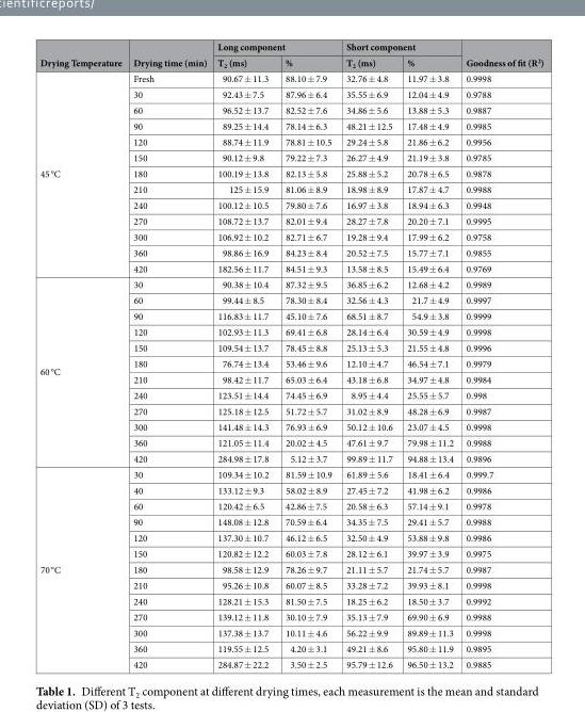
<table><thead><tr><td rowspan="2">Drying Temperature</td><td rowspan="2">Drying time (min)</td><td colspan="2">Long component</td><td colspan="2">Short component</td><td rowspan="2">Goodness of fit (R<sup>2</sup>)</td></tr><tr><td>T<sub>2</sub> (ms)</td><td>%</td><td>T<sub>2</sub> (ms)</td><td>%</td></tr></thead><tbody><tr><td rowspan="13">45 °C</td><td>Fresh</td><td>90.67 ± 11.3</td><td>88.10 ± 7.9</td><td>32.76 ± 4.8</td><td>11.97 ± 3.8</td><td>0.9998</td></tr><tr><td>30</td><td>92.43 ± 7.5</td><td>87.96 ± 6.4</td><td>35.55 ± 6.9</td><td>12.04 ± 4.9</td><td>0.9788</td></tr><tr><td>60</td><td>96.52 ± 13.7</td><td>82.52 ± 7.6</td><td>34.86 ± 5.6</td><td>13.88 ± 5.3</td><td>0.9887</td></tr><tr><td>90</td><td>89.25 ± 14.4</td><td>78.14 ± 6.3</td><td>48.21 ± 12.5</td><td>17.48 ± 4.9</td><td>0.9985</td></tr><tr><td>120</td><td>88.74 ± 11.9</td><td>78.81 ± 10.5</td><td>29.24 ± 5.8</td><td>21.86 ± 6.2</td><td>0.9956</td></tr><tr><td>150</td><td>90.12 ± 9.8</td><td>79.22 ± 7.3</td><td>26.27 ± 4.9</td><td>21.19 ± 3.8</td><td>0.9785</td></tr><tr><td>180</td><td>100.19 ± 13.8</td><td>82.13 ± 5.8</td><td>25.88 ± 5.2</td><td>20.78 ± 6.5</td><td>0.9878</td></tr><tr><td>210</td><td>125 ± 15.9</td><td>81.06 ± 8.9</td><td>18.98 ± 8.9</td><td>17.87 ± 4.7</td><td>0.9988</td></tr><tr><td>240</td><td>100.12 ± 10.5</td><td>79.80 ± 7.6</td><td>16.97 ± 3.8</td><td>18.94 ± 6.3</td><td>0.9948</td></tr><tr><td>270</td><td>108.72 ± 13.7</td><td>82.01 ± 9.4</td><td>28.27 ± 7.8</td><td>20.20 ± 7.1</td><td>0.9995</td></tr><tr><td>300</td><td>106.92 ± 10.2</td><td>82.71 ± 6.7</td><td>19.28 ± 9.4</td><td>17.99 ± 6.2</td><td>0.9758</td></tr><tr><td>360</td><td>98.86 ± 16.9</td><td>84.23 ± 8.4</td><td>20.52 ± 7.5</td><td>15.77 ± 7.1</td><td>0.9855</td></tr><tr><td>420</td><td>182.56 ± 11.7</td><td>84.51 ± 9.3</td><td>13.58 ± 8.5</td><td>15.49 ± 6.4</td><td>0.9769</td></tr><tr><td rowspan="12">60 °C</td><td>30</td><td>90.38 ± 10.4</td><td>87.32 ± 9.5</td><td>36.85 ± 6.2</td><td>12.68 ± 4.2</td><td>0.9989</td></tr><tr><td>60</td><td>99.44 ± 8.5</td><td>78.30 ± 8.4</td><td>32.56 ± 4.3</td><td>21.7 ± 4.9</td><td>0.9997</td></tr><tr><td>90</td><td>116.83 ± 11.7</td><td>45.10 ± 7.6</td><td>68.51 ± 8.7</td><td>54.9 ± 3.8</td><td>0.9999</td></tr><tr><td>120</td><td>102.93 ± 11.3</td><td>69.41 ± 6.8</td><td>28.14 ± 6.4</td><td>30.59 ± 4.9</td><td>0.9998</td></tr><tr><td>150</td><td>109.54 ± 13.7</td><td>78.45 ± 8.8</td><td>25.13 ± 5.3</td><td>21.55 ± 4.8</td><td>0.9996</td></tr><tr><td>180</td><td>76.74 ± 13.4</td><td>53.46 ± 9.6</td><td>12.10 ± 4.7</td><td>46.54 ± 7.1</td><td>0.9979</td></tr><tr><td>210</td><td>98.42 ± 11.7</td><td>65.03 ± 6.4</td><td>43.18 ± 6.8</td><td>34.97 ± 4.8</td><td>0.9984</td></tr><tr><td>240</td><td>123.51 ± 14.4</td><td>74.45 ± 6.9</td><td>8.95 ± 4.4</td><td>25.55 ± 5.7</td><td>0.998</td></tr><tr><td>270</td><td>125.18 ± 12.5</td><td>51.72 ± 5.7</td><td>31.02 ± 8.9</td><td>48.28 ± 6.9</td><td>0.9987</td></tr><tr><td>300</td><td>141.48 ± 14.3</td><td>76.93 ± 6.9</td><td>50.12 ± 10.6</td><td>23.07 ± 4.5</td><td>0.9998</td></tr><tr><td>360</td><td>121.05 ± 11.4</td><td>20.02 ± 4.5</td><td>47.61 ± 9.7</td><td>79.98 ± 11.2</td><td>0.9988</td></tr><tr><td>420</td><td>284.98 ± 17.8</td><td>5.12 ± 3.7</td><td>99.89 ± 11.7</td><td>94.88 ± 13.4</td><td>0.9896</td></tr><tr><td rowspan="13">70 °C</td><td>30</td><td>109.34 ± 10.2</td><td>81.59 ± 10.9</td><td>61.89 ± 5.6</td><td>18.41 ± 6.4</td><td>0.999.7</td></tr><tr><td>40</td><td>133.12 ± 9.3</td><td>58.02 ± 8.9</td><td>27.45 ± 7.2</td><td>41.98 ± 6.2</td><td>0.9986</td></tr><tr><td>60</td><td>120.42 ± 6.5</td><td>42.86 ± 7.5</td><td>20.58 ± 6.3</td><td>57.14 ± 9.1</td><td>0.9978</td></tr><tr><td>90</td><td>148.08 ± 12.8</td><td>70.59 ± 6.4</td><td>34.35 ± 7.5</td><td>29.41 ± 5.7</td><td>0.9988</td></tr><tr><td>120</td><td>137.30 ± 10.7</td><td>46.12 ± 6.5</td><td>32.50 ± 4.9</td><td>53.88 ± 9.8</td><td>0.9986</td></tr><tr><td>150</td><td>120.82 ± 12.2</td><td>60.03 ± 7.8</td><td>28.12 ± 6.1</td><td>39.97 ± 3.9</td><td>0.9975</td></tr><tr><td>180</td><td>98.58 ± 12.9</td><td>78.26 ± 9.7</td><td>21.11 ± 5.7</td><td>21.74 ± 5.7</td><td>0.9987</td></tr><tr><td>210</td><td>95.26 ± 10.8</td><td>60.07 ± 8.5</td><td>33.28 ± 7.2</td><td>39.93 ± 8.1</td><td>0.9998</td></tr><tr><td>240</td><td>128.21 ± 15.3</td><td>81.50 ± 7.5</td><td>18.25 ± 6.2</td><td>18.50 ± 3.7</td><td>0.9992</td></tr><tr><td>270</td><td>139.12 ± 11.8</td><td>30.10 ± 7.9</td><td>35.13 ± 7.9</td><td>69.90 ± 6.9</td><td>0.9988</td></tr><tr><td>300</td><td>137.38 ± 13.7</td><td>10.11 ± 4.6</td><td>56.22 ± 9.9</td><td>89.89 ± 11.3</td><td>0.9998</td></tr><tr><td>360</td><td>119.55 ± 12.5</td><td>4.20 ± 3.1</td><td>49.21 ± 8.6</td><td>95.80 ± 11.9</td><td>0.9895</td></tr><tr><td>420</td><td>284.87 ± 22.2</td><td>3.50 ± 2.5</td><td>95.79 ± 12.6</td><td>96.50 ± 13.2</td><td>0.9885</td></tr></tbody></table>